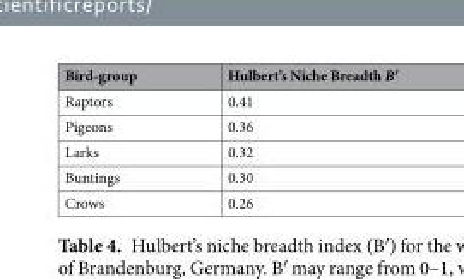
<table><thead><tr><td>Bird-group</td><td>Hulbert’s Niche Breadth B′</td></tr></thead><tbody><tr><td>Raptors</td><td>0.41</td></tr><tr><td>Pigeons</td><td>0.36</td></tr><tr><td>Larks</td><td>0.32</td></tr><tr><td>Buntings</td><td>0.30</td></tr><tr><td>Crows</td><td>0.26</td></tr></tbody></table>